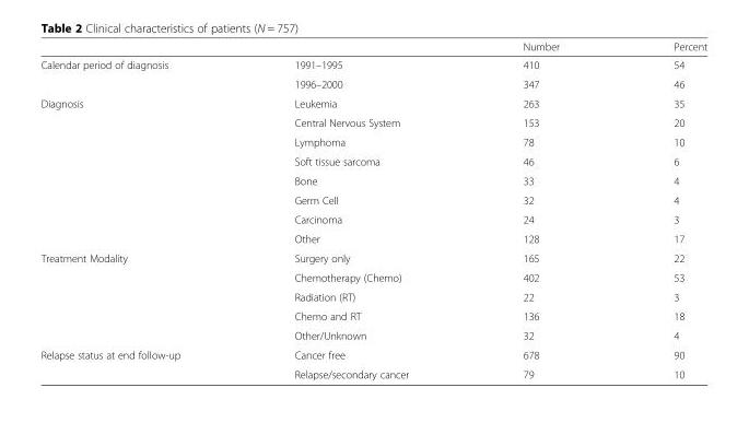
<table><thead><tr><td></td><td></td><td>Number</td><td>Percent</td></tr></thead><tbody><tr><td rowspan="2">Calendar period of diagnosis</td><td>1991–1995</td><td>410</td><td>54</td></tr><tr><td>1996–2000</td><td>347</td><td>46</td></tr><tr><td rowspan="8">Diagnosis</td><td>Leukemia</td><td>263</td><td>35</td></tr><tr><td>Central Nervous System</td><td>153</td><td>20</td></tr><tr><td>Lymphoma</td><td>78</td><td>10</td></tr><tr><td>Soft tissue sarcoma</td><td>46</td><td>6</td></tr><tr><td>Bone</td><td>33</td><td>4</td></tr><tr><td>Germ Cell</td><td>32</td><td>4</td></tr><tr><td>Carcinoma</td><td>24</td><td>3</td></tr><tr><td>Other</td><td>128</td><td>17</td></tr><tr><td rowspan="5">Treatment Modality</td><td>Surgery only</td><td>165</td><td>22</td></tr><tr><td>Chemotherapy (Chemo)</td><td>402</td><td>53</td></tr><tr><td>Radiation (RT)</td><td>22</td><td>3</td></tr><tr><td>Chemo and RT</td><td>136</td><td>18</td></tr><tr><td>Other/Unknown</td><td>32</td><td>4</td></tr><tr><td rowspan="2">Relapse status at end follow-up</td><td>Cancer free</td><td>678</td><td>90</td></tr><tr><td>Relapse/secondary cancer</td><td>79</td><td>10</td></tr></tbody></table>